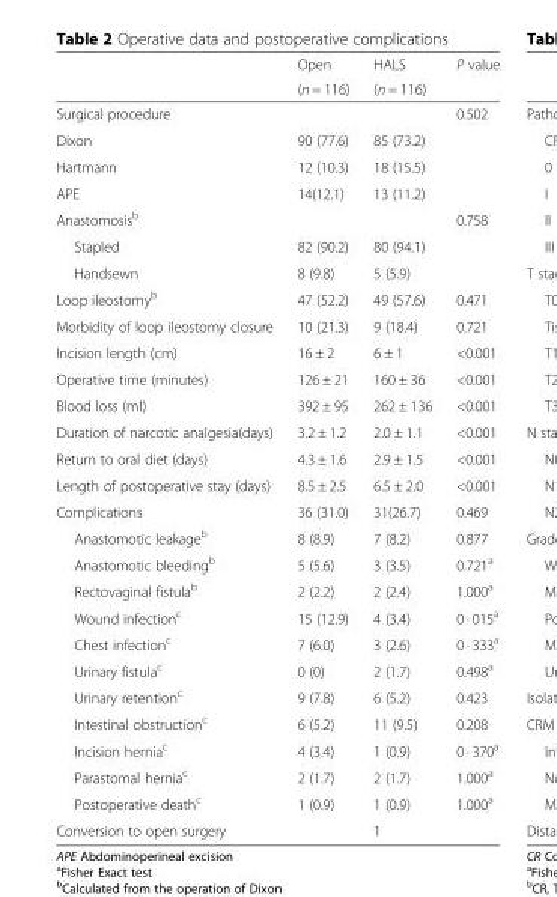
<table><thead><tr><td rowspan="2"></td><td rowspan="2">Open (n = 116)</td><td rowspan="2">HALS (n = 116)</td><td rowspan="2">P value</td></tr><tr></tr></thead><tbody><tr><td>Surgical procedure</td><td></td><td></td><td>0.502</td></tr><tr><td>Dixon</td><td>90 (77.6)</td><td>85 (73.2)</td><td></td></tr><tr><td>Hartmann</td><td>12 (10.3)</td><td>18 (15.5)</td><td></td></tr><tr><td>APE</td><td>14(12.1)</td><td>13 (11.2)</td><td></td></tr><tr><td>Anastomosis<sup>b</sup></td><td></td><td></td><td>0.758</td></tr><tr><td>Stapled</td><td>82 (90.2)</td><td>80 (94.1)</td><td></td></tr><tr><td>Handsewn</td><td>8 (9.8)</td><td>5 (5.9)</td><td></td></tr><tr><td>Loop ileostomy<sup>b</sup></td><td>47 (52.2)</td><td>49 (57.6)</td><td>0.471</td></tr><tr><td>Morbidity of loop ileostomy closure</td><td>10 (21.3)</td><td>9 (18.4)</td><td>0.721</td></tr><tr><td>Incision length (cm)</td><td>16 ± 2</td><td>6 ± 1</td><td>&lt;0.001</td></tr><tr><td>Operative time (minutes)</td><td>126 ± 21</td><td>160 ± 36</td><td>&lt;0.001</td></tr><tr><td>Blood loss (ml)</td><td>392 ± 95</td><td>262 ± 136</td><td>&lt;0.001</td></tr><tr><td>Duration of narcotic analgesia(days)</td><td>3.2 ± 1.2</td><td>2.0 ± 1.1</td><td>&lt;0.001</td></tr><tr><td>Return to oral diet (days)</td><td>4.3 ± 1.6</td><td>2.9 ± 1.5</td><td>&lt;0.001</td></tr><tr><td>Length of postoperative stay (days)</td><td>8.5 ± 2.5</td><td>6.5 ± 2.0</td><td>&lt;0.001</td></tr><tr><td>Complications</td><td>36 (31.0)</td><td>31(26.7)</td><td>0.469</td></tr><tr><td>Anastomotic leakage<sup>b</sup></td><td>8 (8.9)</td><td>7 (8.2)</td><td>0.877</td></tr><tr><td>Anastomotic bleeding<sup>b</sup></td><td>5 (5.6)</td><td>3 (3.5)</td><td>0.721<sup>a</sup></td></tr><tr><td>Rectovaginal fistula<sup>b</sup></td><td>2 (2.2)</td><td>2 (2.4)</td><td>1.000<sup>a</sup></td></tr><tr><td>Wound infection<sup>c</sup></td><td>15 (12.9)</td><td>4 (3.4)</td><td>0 · 015<sup>a</sup></td></tr><tr><td>Chest infection<sup>c</sup></td><td>7 (6.0)</td><td>3 (2.6)</td><td>0 · 333<sup>a</sup></td></tr><tr><td>Urinary fistula<sup>c</sup></td><td>0 (0)</td><td>2 (1.7)</td><td>0.498<sup>a</sup></td></tr><tr><td>Urinary retention<sup>c</sup></td><td>9 (7.8)</td><td>6 (5.2)</td><td>0.423</td></tr><tr><td>Intestinal obstruction<sup>c</sup></td><td>6 (5.2)</td><td>11 (9.5)</td><td>0.208</td></tr><tr><td>Incision hernia<sup>c</sup></td><td>4 (3.4)</td><td>1 (0.9)</td><td>0 · 370<sup>a</sup></td></tr><tr><td>Parastomal hernia<sup>c</sup></td><td>2 (1.7)</td><td>2 (1.7)</td><td>1.000<sup>a</sup></td></tr><tr><td>Postoperative death<sup>c</sup></td><td>1 (0.9)</td><td>1 (0.9)</td><td>1.000<sup>a</sup></td></tr><tr><td>Conversion to open surgery</td><td></td><td>1</td><td></td></tr></tbody></table>